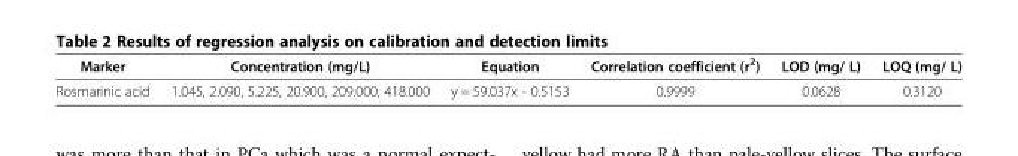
<table><thead><tr><td>Marker</td><td>Concentration (mg/L)</td><td>Equation</td><td>Correlation coefficient (r<sup>2</sup>)</td><td>LOD (mg/ L)</td><td>LOQ (mg/ L)</td></tr></thead><tbody><tr><td>Rosmarinic acid</td><td>1.045, 2.090, 5.225, 20.900, 209.000, 418.000</td><td>y = 59.037x - 0.5153</td><td>0.9999</td><td>0.0628</td><td>0.3120</td></tr></tbody></table>